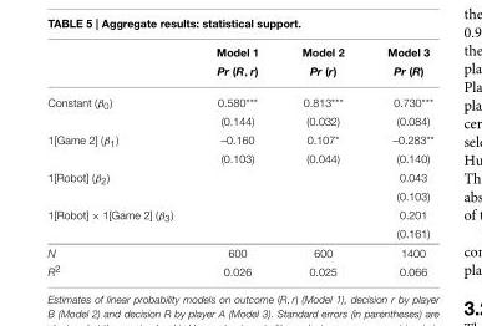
<table><thead><tr><td rowspan="2"></td><td rowspan="2">Model 1 Pr (R, r)</td><td rowspan="2">Model 2 Pr (r)</td><td rowspan="2">Model 3 Pr (R)</td></tr><tr></tr></thead><tbody><tr><td rowspan="2">Constant (β<sub>0</sub>)</td><td>0.580***</td><td>0.813***</td><td>0.730***</td></tr><tr><td>(0.144)</td><td>(0.032)</td><td>(0.084)</td></tr><tr><td rowspan="2">1[Game 2] (β<sub>1</sub>)</td><td>–0.160</td><td>0.107*</td><td>–0.283**</td></tr><tr><td>(0.103)</td><td>(0.044)</td><td>(0.140)</td></tr><tr><td rowspan="2">1[Robot] (β<sub>2</sub>)</td><td></td><td></td><td>0.043</td></tr><tr><td></td><td></td><td>(0.103)</td></tr><tr><td rowspan="2">1[Robot] × 1[Game 2] (β<sub>3</sub>)</td><td></td><td></td><td>0.201</td></tr><tr><td></td><td></td><td>(0.161)</td></tr><tr><td>N</td><td>600</td><td>600</td><td>1400</td></tr><tr><td>R<sup>2</sup></td><td>0.026</td><td>0.025</td><td>0.066</td></tr></tbody></table>